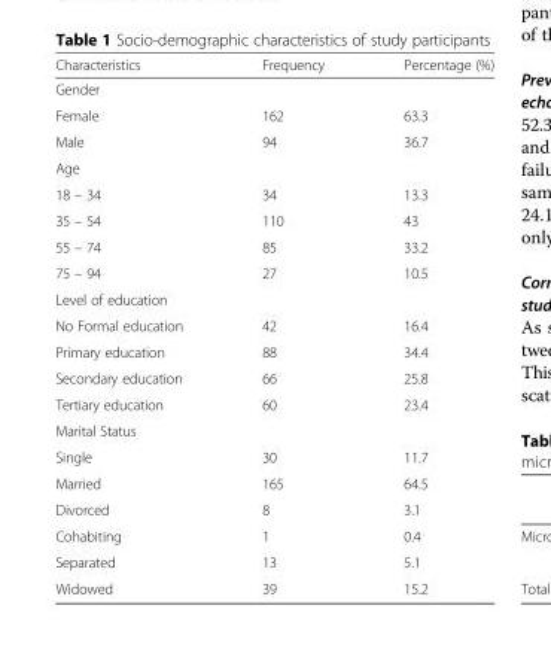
<table><thead><tr><td>Characteristics</td><td>Frequency</td><td>Percentage (%)</td></tr></thead><tbody><tr><td colspan="3">Gender</td></tr><tr><td>Female</td><td>162</td><td>63.3</td></tr><tr><td>Male</td><td>94</td><td>36.7</td></tr><tr><td colspan="3">Age</td></tr><tr><td>18 – 34</td><td>34</td><td>13.3</td></tr><tr><td>35 – 54</td><td>110</td><td>43</td></tr><tr><td>55 – 74</td><td>85</td><td>33.2</td></tr><tr><td>75 – 94</td><td>27</td><td>10.5</td></tr><tr><td colspan="3">Level of education</td></tr><tr><td>No Formal education</td><td>42</td><td>16.4</td></tr><tr><td>Primary education</td><td>88</td><td>34.4</td></tr><tr><td>Secondary education</td><td>66</td><td>25.8</td></tr><tr><td>Tertiary education</td><td>60</td><td>23.4</td></tr><tr><td colspan="3">Marital Status</td></tr><tr><td>Single</td><td>30</td><td>11.7</td></tr><tr><td>Married</td><td>165</td><td>64.5</td></tr><tr><td>Divorced</td><td>8</td><td>3.1</td></tr><tr><td>Cohabiting</td><td>1</td><td>0.4</td></tr><tr><td>Separated</td><td>13</td><td>5.1</td></tr><tr><td>Widowed</td><td>39</td><td>15.2</td></tr></tbody></table>